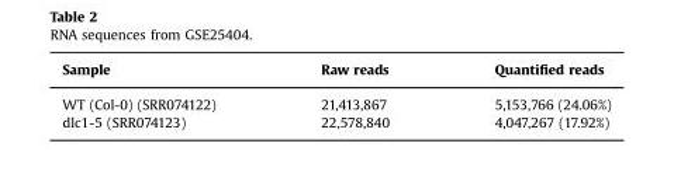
<table><thead><tr><td>Sample</td><td>Raw reads</td><td>Quantified reads</td></tr></thead><tbody><tr><td>WT (Col-0) (SRR074122)</td><td>21,413,867</td><td>5,153,766 (24.06%)</td></tr><tr><td>dlc1-5 (SRR074123)</td><td>22,578,840</td><td>4,047,267 (17.92%)</td></tr></tbody></table>